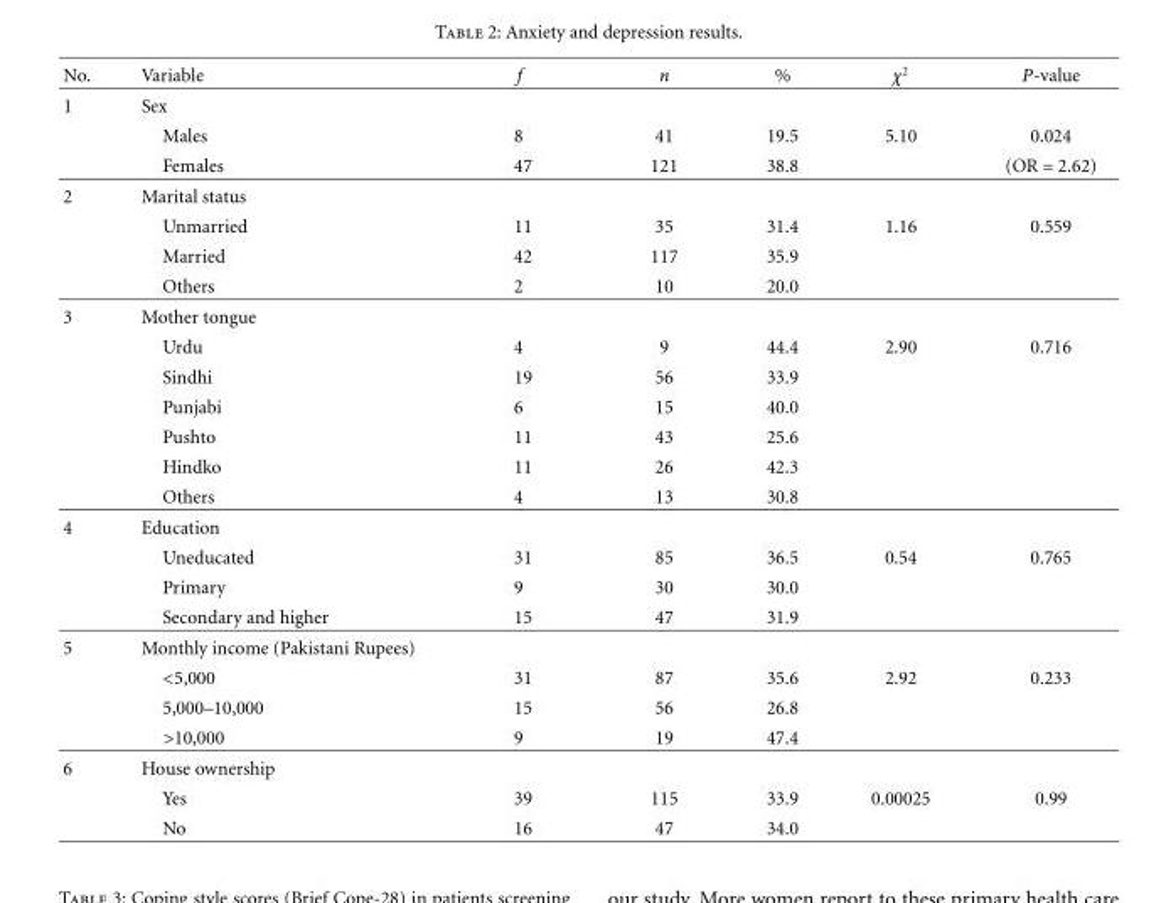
<table><thead><tr><td>No.</td><td>Variable</td><td>f</td><td>n</td><td>%</td><td>χ<sup>2</sup></td><td>P-value</td></tr></thead><tbody><tr><td rowspan="3">1</td><td>Sex</td><td></td><td></td><td></td><td></td><td></td></tr><tr><td>Males</td><td>8</td><td>41</td><td>19.5</td><td>5.10</td><td>0.024</td></tr><tr><td>Females</td><td>47</td><td>121</td><td>38.8</td><td></td><td>(OR = 2.62)</td></tr><tr><td rowspan="4">2</td><td>Marital status</td><td></td><td></td><td></td><td></td><td></td></tr><tr><td>Unmarried</td><td>11</td><td>35</td><td>31.4</td><td>1.16</td><td>0.559</td></tr><tr><td>Married</td><td>42</td><td>117</td><td>35.9</td><td></td><td></td></tr><tr><td>Others</td><td>2</td><td>10</td><td>20.0</td><td></td><td></td></tr><tr><td rowspan="7">3</td><td>Mother tongue</td><td></td><td></td><td></td><td></td><td></td></tr><tr><td>Urdu</td><td>4</td><td>9</td><td>44.4</td><td>2.90</td><td>0.716</td></tr><tr><td>Sindhi</td><td>19</td><td>56</td><td>33.9</td><td></td><td></td></tr><tr><td>Punjabi</td><td>6</td><td>15</td><td>40.0</td><td></td><td></td></tr><tr><td>Pushto</td><td>11</td><td>43</td><td>25.6</td><td></td><td></td></tr><tr><td>Hindko</td><td>11</td><td>26</td><td>42.3</td><td></td><td></td></tr><tr><td>Others</td><td>4</td><td>13</td><td>30.8</td><td></td><td></td></tr><tr><td rowspan="4">4</td><td>Education</td><td></td><td></td><td></td><td></td><td></td></tr><tr><td>Uneducated</td><td>31</td><td>85</td><td>36.5</td><td>0.54</td><td>0.765</td></tr><tr><td>Primary</td><td>9</td><td>30</td><td>30.0</td><td></td><td></td></tr><tr><td>Secondary and higher</td><td>15</td><td>47</td><td>31.9</td><td></td><td></td></tr><tr><td rowspan="4">5</td><td>Monthly income (Pakistani Rupees)</td><td></td><td></td><td></td><td></td><td></td></tr><tr><td>&lt;5,000</td><td>31</td><td>87</td><td>35.6</td><td>2.92</td><td>0.233</td></tr><tr><td>5,000–10,000</td><td>15</td><td>56</td><td>26.8</td><td></td><td></td></tr><tr><td>&gt;10,000</td><td>9</td><td>19</td><td>47.4</td><td></td><td></td></tr><tr><td rowspan="3">6</td><td>House ownership</td><td></td><td></td><td></td><td></td><td></td></tr><tr><td>Yes</td><td>39</td><td>115</td><td>33.9</td><td>0.00025</td><td>0.99</td></tr><tr><td>No</td><td>16</td><td>47</td><td>34.0</td><td></td><td></td></tr></tbody></table>